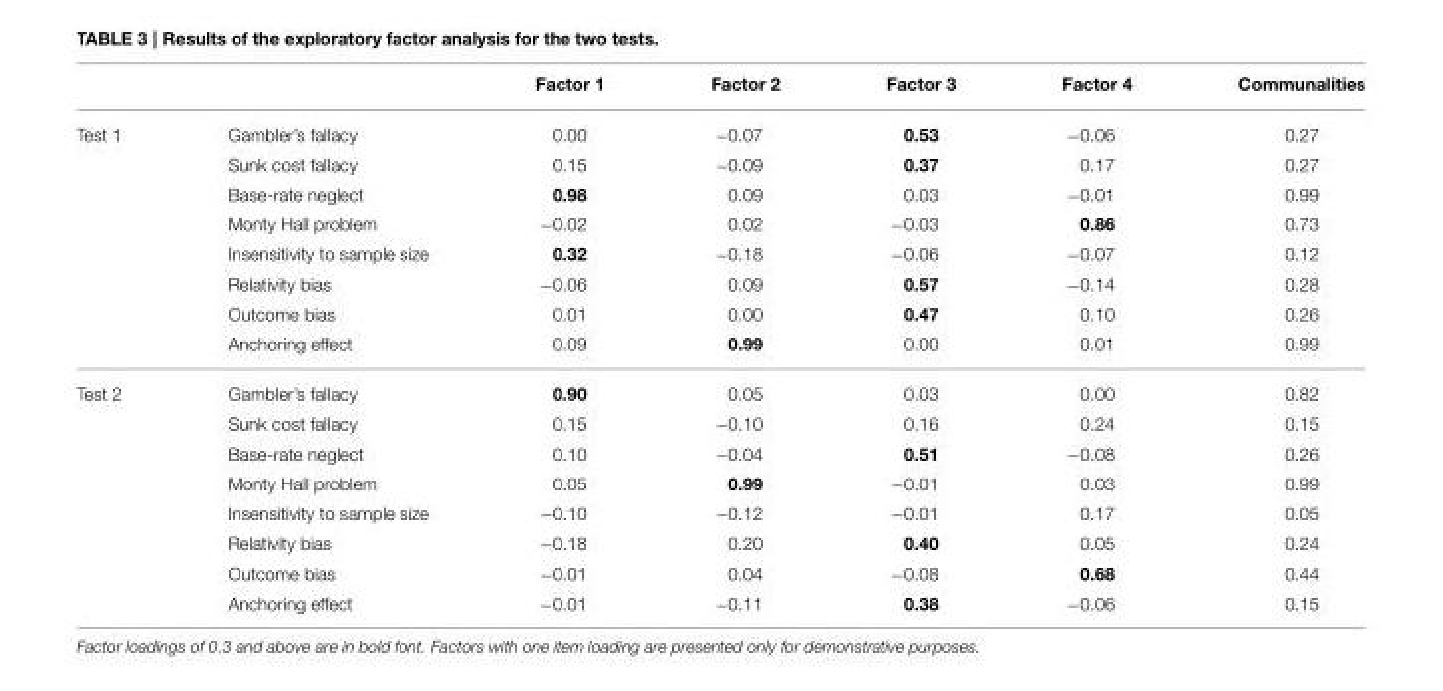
<table><thead><tr><td></td><td></td><td>Factor 1</td><td>Factor 2</td><td>Factor 3</td><td>Factor 4</td><td>Communalities</td></tr></thead><tbody><tr><td rowspan="8">Test 1</td><td>Gambler’s fallacy</td><td>0.00</td><td>−0.07</td><td>0.53</td><td>−0.06</td><td>0.27</td></tr><tr><td>Sunk cost fallacy</td><td>0.15</td><td>−0.09</td><td>0.37</td><td>0.17</td><td>0.27</td></tr><tr><td>Base-rate neglect</td><td>0.98</td><td>0.09</td><td>0.03</td><td>−0.01</td><td>0.99</td></tr><tr><td>Monty Hall problem</td><td>−0.02</td><td>0.02</td><td>−0.03</td><td>0.86</td><td>0.73</td></tr><tr><td>Insensitivity to sample size</td><td>0.32</td><td>−0.18</td><td>−0.06</td><td>−0.07</td><td>0.12</td></tr><tr><td>Relativity bias</td><td>−0.06</td><td>0.09</td><td>0.57</td><td>−0.14</td><td>0.28</td></tr><tr><td>Outcome bias</td><td>0.01</td><td>0.00</td><td>0.47</td><td>0.10</td><td>0.26</td></tr><tr><td>Anchoring effect</td><td>0.09</td><td>0.99</td><td>0.00</td><td>0.01</td><td>0.99</td></tr><tr><td rowspan="8">Test 2</td><td>Gambler’s fallacy</td><td>0.90</td><td>0.05</td><td>0.03</td><td>0.00</td><td>0.82</td></tr><tr><td>Sunk cost fallacy</td><td>0.15</td><td>−0.10</td><td>0.16</td><td>0.24</td><td>0.15</td></tr><tr><td>Base-rate neglect</td><td>0.10</td><td>−0.04</td><td>0.51</td><td>−0.08</td><td>0.26</td></tr><tr><td>Monty Hall problem</td><td>0.05</td><td>0.99</td><td>−0.01</td><td>0.03</td><td>0.99</td></tr><tr><td>Insensitivity to sample size</td><td>−0.10</td><td>−0.12</td><td>−0.01</td><td>0.17</td><td>0.05</td></tr><tr><td>Relativity bias</td><td>−0.18</td><td>0.20</td><td>0.40</td><td>0.05</td><td>0.24</td></tr><tr><td>Outcome bias</td><td>−0.01</td><td>0.04</td><td>−0.08</td><td>0.68</td><td>0.44</td></tr><tr><td>Anchoring effect</td><td>−0.01</td><td>−0.11</td><td>0.38</td><td>−0.06</td><td>0.15</td></tr></tbody></table>